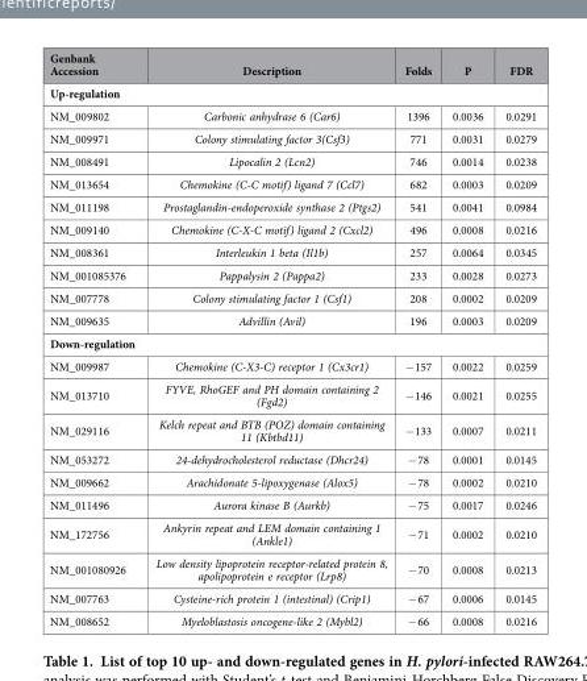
<table><thead><tr><td>Genbank Accession</td><td>Description</td><td>Folds</td><td>P</td><td>FDR</td></tr></thead><tbody><tr><td colspan="5">Up-regulation</td></tr><tr><td>NM_009802</td><td>Carbonic anhydrase 6 (Car6)</td><td>1396</td><td>0.0036</td><td>0.0291</td></tr><tr><td>NM_009971</td><td>Colony stimulating factor 3(Csf3)</td><td>771</td><td>0.0031</td><td>0.0279</td></tr><tr><td>NM_008491</td><td>Lipocalin 2 (Lcn2)</td><td>746</td><td>0.0014</td><td>0.0238</td></tr><tr><td>NM_013654</td><td>Chemokine (C-C motif) ligand 7 (Ccl7)</td><td>682</td><td>0.0003</td><td>0.0209</td></tr><tr><td>NM_011198</td><td>Prostaglandin-endoperoxide synthase 2 (Ptgs2)</td><td>541</td><td>0.0041</td><td>0.0984</td></tr><tr><td>NM_009140</td><td>Chemokine (C-X-C motif) ligand 2 (Cxcl2)</td><td>496</td><td>0.0008</td><td>0.0216</td></tr><tr><td>NM_008361</td><td>Interleukin 1 beta (Il1b)</td><td>257</td><td>0.0064</td><td>0.0345</td></tr><tr><td>NM_001085376</td><td>Pappalysin 2 (Pappa2)</td><td>233</td><td>0.0028</td><td>0.0273</td></tr><tr><td>NM_007778</td><td>Colony stimulating factor 1 (Csf1)</td><td>208</td><td>0.0002</td><td>0.0209</td></tr><tr><td>NM_009635</td><td>Advillin (Avil)</td><td>196</td><td>0.0003</td><td>0.0209</td></tr><tr><td colspan="5">Down-regulation</td></tr><tr><td>NM_009987</td><td>Chemokine (C-X3-C) receptor 1 (Cx3cr1)</td><td>− 157</td><td>0.0022</td><td>0.0259</td></tr><tr><td>NM_013710</td><td>FYVE, RhoGEF and PH domain containing 2 (Fgd2)</td><td>− 146</td><td>0.0021</td><td>0.0255</td></tr><tr><td>NM_029116</td><td>Kelch repeat and BTB (POZ) domain containing 11 (Kbtbd11)</td><td>− 133</td><td>0.0007</td><td>0.0211</td></tr><tr><td>NM_053272</td><td>24-dehydrocholesterol reductase (Dhcr24)</td><td>− 78</td><td>0.0001</td><td>0.0145</td></tr><tr><td>NM_009662</td><td>Arachidonate 5-lipoxygenase (Alox5)</td><td>− 78</td><td>0.0002</td><td>0.0210</td></tr><tr><td>NM_011496</td><td>Aurora kinase B (Aurkb)</td><td>− 75</td><td>0.0017</td><td>0.0246</td></tr><tr><td>NM_172756</td><td>Ankyrin repeat and LEM domain containing 1 (Ankle1)</td><td>− 71</td><td>0.0002</td><td>0.0210</td></tr><tr><td>NM_001080926</td><td>Low density lipoprotein receptor-related protein 8, apolipoprotein e receptor (Lrp8)</td><td>− 70</td><td>0.0008</td><td>0.0213</td></tr><tr><td>NM_007763</td><td>Cysteine-rich protein 1 (intestinal) (Crip1)</td><td>− 67</td><td>0.0006</td><td>0.0145</td></tr><tr><td>NM_008652</td><td>Myeloblastosis oncogene-like 2 (Mybl2)</td><td>− 66</td><td>0.0008</td><td>0.0216</td></tr></tbody></table>